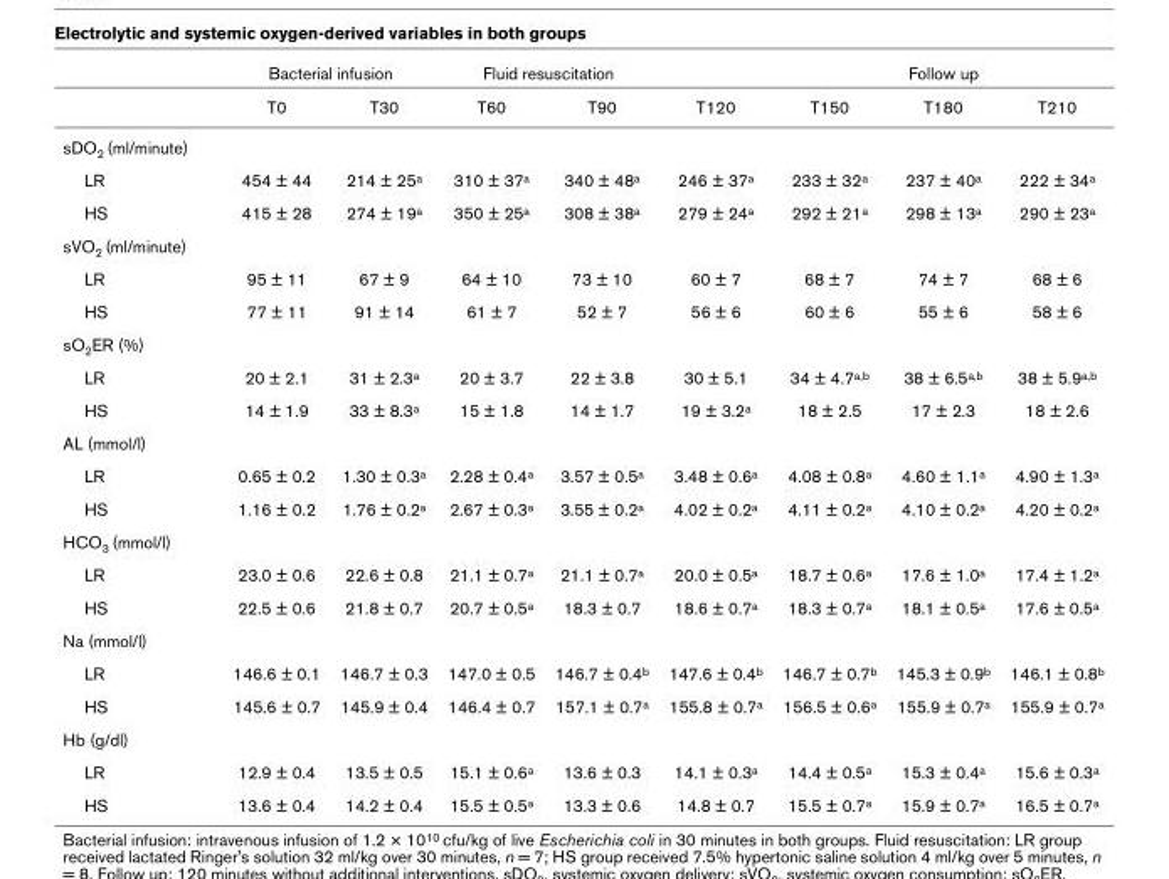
<table><thead><tr><td rowspan="2"></td><td colspan="2">Bacterial infusion</td><td colspan="2">Fluid resuscitation</td><td rowspan="2">T120</td><td colspan="3">Follow up</td></tr><tr><td>T0</td><td>T30</td><td>T60</td><td>T90</td><td>T150</td><td>T180</td><td>T210</td></tr></thead><tbody><tr><td colspan="9">sDO2 (ml/minute)</td></tr><tr><td>LR</td><td>454 ± 44</td><td>214 ± 25a</td><td>310 ± 37a</td><td>340 ± 48a</td><td>246 ± 37a</td><td>233 ± 32a</td><td>237 ± 40a</td><td>222 ± 34a</td></tr><tr><td>HS</td><td>415 ± 28</td><td>274 ± 19a</td><td>350 ± 25a</td><td>308 ± 38a</td><td>279 ± 24a</td><td>292 ± 21a</td><td>298 ± 13a</td><td>290 ± 23a</td></tr><tr><td colspan="9">sVO2 (ml/minute)</td></tr><tr><td>LR</td><td>95 ± 11</td><td>67 ± 9</td><td>64 ± 10</td><td>73 ± 10</td><td>60 ± 7</td><td>68 ± 7</td><td>74 ± 7</td><td>68 ± 6</td></tr><tr><td>HS</td><td>77 ± 11</td><td>91 ± 14</td><td>61 ± 7</td><td>52 ± 7</td><td>56 ± 6</td><td>60 ± 6</td><td>55 ± 6</td><td>58 ± 6</td></tr><tr><td colspan="9">sO2ER (%)</td></tr><tr><td>LR</td><td>20 ± 2.1</td><td>31 ± 2.3a</td><td>20 ± 3.7</td><td>22 ± 3.8</td><td>30 ± 5.1</td><td>34 ± 4.7a,b</td><td>38 ± 6.5a,b</td><td>38 ± 5.9a,b</td></tr><tr><td>HS</td><td>14 ± 1.9</td><td>33 ± 8.3a</td><td>15 ± 1.8</td><td>14 ± 1.7</td><td>19 ± 3.2a</td><td>18 ± 2.5</td><td>17 ± 2.3</td><td>18 ± 2.6</td></tr><tr><td colspan="9">AL (mmol/l)</td></tr><tr><td>LR</td><td>0.65 ± 0.2</td><td>1.30 ± 0.3a</td><td>2.28 ± 0.4a</td><td>3.57 ± 0.5a</td><td>3.48 ± 0.6a</td><td>4.08 ± 0.8a</td><td>4.60 ± 1.1a</td><td>4.90 ± 1.3a</td></tr><tr><td>HS</td><td>1.16 ± 0.2</td><td>1.76 ± 0.2a</td><td>2.67 ± 0.3a</td><td>3.55 ± 0.2a</td><td>4.02 ± 0.2a</td><td>4.11 ± 0.2a</td><td>4.10 ± 0.2a</td><td>4.20 ± 0.2a</td></tr><tr><td colspan="9">HCO3 (mmol/l)</td></tr><tr><td>LR</td><td>23.0 ± 0.6</td><td>22.6 ± 0.8</td><td>21.1 ± 0.7a</td><td>21.1 ± 0.7a</td><td>20.0 ± 0.5a</td><td>18.7 ± 0.6a</td><td>17.6 ± 1.0a</td><td>17.4 ± 1.2a</td></tr><tr><td>HS</td><td>22.5 ± 0.6</td><td>21.8 ± 0.7</td><td>20.7 ± 0.5a</td><td>18.3 ± 0.7</td><td>18.6 ± 0.7a</td><td>18.3 ± 0.7a</td><td>18.1 ± 0.5a</td><td>17.6 ± 0.5a</td></tr><tr><td colspan="9">Na (mmol/l)</td></tr><tr><td>LR</td><td>146.6 ± 0.1</td><td>146.7 ± 0.3</td><td>147.0 ± 0.5</td><td>146.7 ± 0.4b</td><td>147.6 ± 0.4b</td><td>146.7 ± 0.7b</td><td>145.3 ± 0.9b</td><td>146.1 ± 0.8b</td></tr><tr><td>HS</td><td>145.6 ± 0.7</td><td>145.9 ± 0.4</td><td>146.4 ± 0.7</td><td>157.1 ± 0.7a</td><td>155.8 ± 0.7a</td><td>156.5 ± 0.6a</td><td>155.9 ± 0.7a</td><td>155.9 ± 0.7a</td></tr><tr><td colspan="9">Hb (g/dl)</td></tr><tr><td>LR</td><td>12.9 ± 0.4</td><td>13.5 ± 0.5</td><td>15.1 ± 0.6a</td><td>13.6 ± 0.3</td><td>14.1 ± 0.3a</td><td>14.4 ± 0.5a</td><td>15.3 ± 0.4a</td><td>15.6 ± 0.3a</td></tr><tr><td>HS</td><td>13.6 ± 0.4</td><td>14.2 ± 0.4</td><td>15.5 ± 0.5a</td><td>13.3 ± 0.6</td><td>14.8 ± 0.7</td><td>15.5 ± 0.7a</td><td>15.9 ± 0.7a</td><td>16.5 ± 0.7a</td></tr></tbody></table>